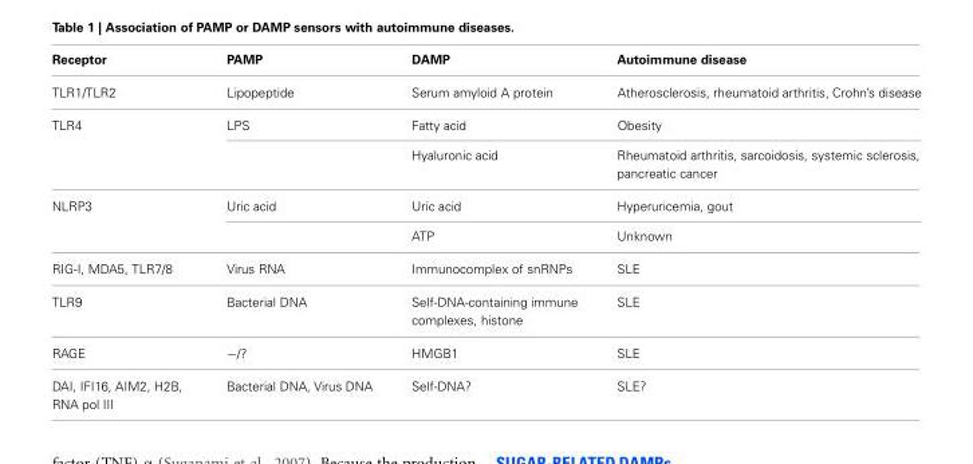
<table><thead><tr><td>Receptor</td><td>PAMP</td><td>DAMP</td><td>Autoimmune disease</td></tr></thead><tbody><tr><td>TLR1/TLR2</td><td>Lipopeptide</td><td>Serum amyloid A protein</td><td>Atherosclerosis, rheumatoid arthritis, Crohn’s disease</td></tr><tr><td rowspan="2">TLR4</td><td>LPS</td><td>Fatty acid</td><td>Obesity</td></tr><tr><td></td><td>Hyaluronic acid</td><td>Rheumatoid arthritis, sarcoidosis, systemic sclerosis, pancreatic cancer</td></tr><tr><td rowspan="2">NLRP3</td><td>Uric acid</td><td>Uric acid</td><td>Hyperuricemia, gout</td></tr><tr><td></td><td>ATP</td><td>Unknown</td></tr><tr><td>RIG-I, MDA5, TLR7/8</td><td>Virus RNA</td><td>Immunocomplex of snRNPs</td><td>SLE</td></tr><tr><td>TLR9</td><td>Bacterial DNA</td><td>Self-DNA-containing immune complexes, histone</td><td>SLE</td></tr><tr><td>RAGE</td><td>−/?</td><td>HMGB1</td><td>SLE</td></tr><tr><td>DAI, IFI16, AIM2, H2B, RNA pol III</td><td>Bacterial DNA, Virus DNA</td><td>Self-DNA?</td><td>SLE?</td></tr></tbody></table>